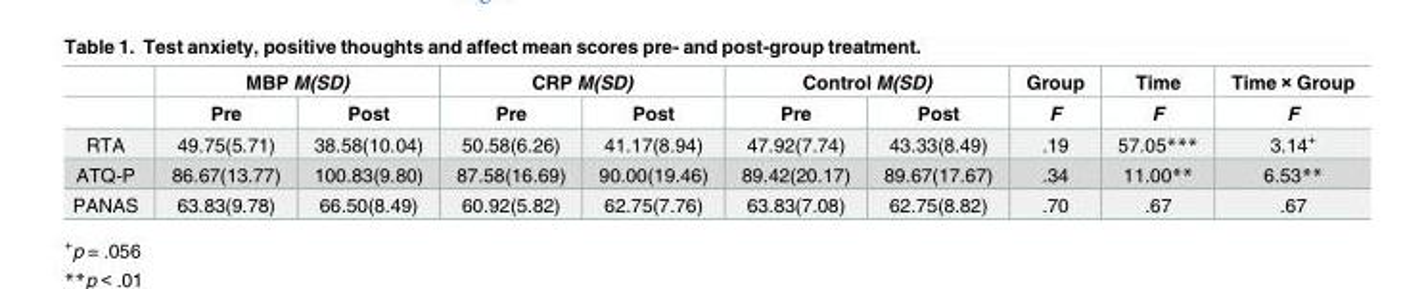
<table><thead><tr><td rowspan="2"></td><td colspan="2">MBP M(SD)</td><td colspan="2">CRP M(SD)</td><td colspan="2">Control M(SD)</td><td rowspan="2">Group F</td><td rowspan="2">Time F</td><td rowspan="2">Time × Group F</td></tr><tr><td>Pre</td><td>Post</td><td>Pre</td><td>Post</td><td>Pre</td><td>Post</td></tr></thead><tbody><tr><td>RTA</td><td>49.75(5.71)</td><td>38.58(10.04)</td><td>50.58(6.26)</td><td>41.17(8.94)</td><td>47.92(7.74)</td><td>43.33(8.49)</td><td>.19</td><td>57.05***</td><td>3.14<sup>+</sup></td></tr><tr><td>ATQ-P</td><td>86.67(13.77)</td><td>100.83(9.80)</td><td>87.58(16.69)</td><td>90.00(19.46)</td><td>89.42(20.17)</td><td>89.67(17.67)</td><td>.34</td><td>11.00**</td><td>6.53**</td></tr><tr><td>PANAS</td><td>63.83(9.78)</td><td>66.50(8.49)</td><td>60.92(5.82)</td><td>62.75(7.76)</td><td>63.83(7.08)</td><td>62.75(8.82)</td><td>.70</td><td>.67</td><td>.67</td></tr></tbody></table>